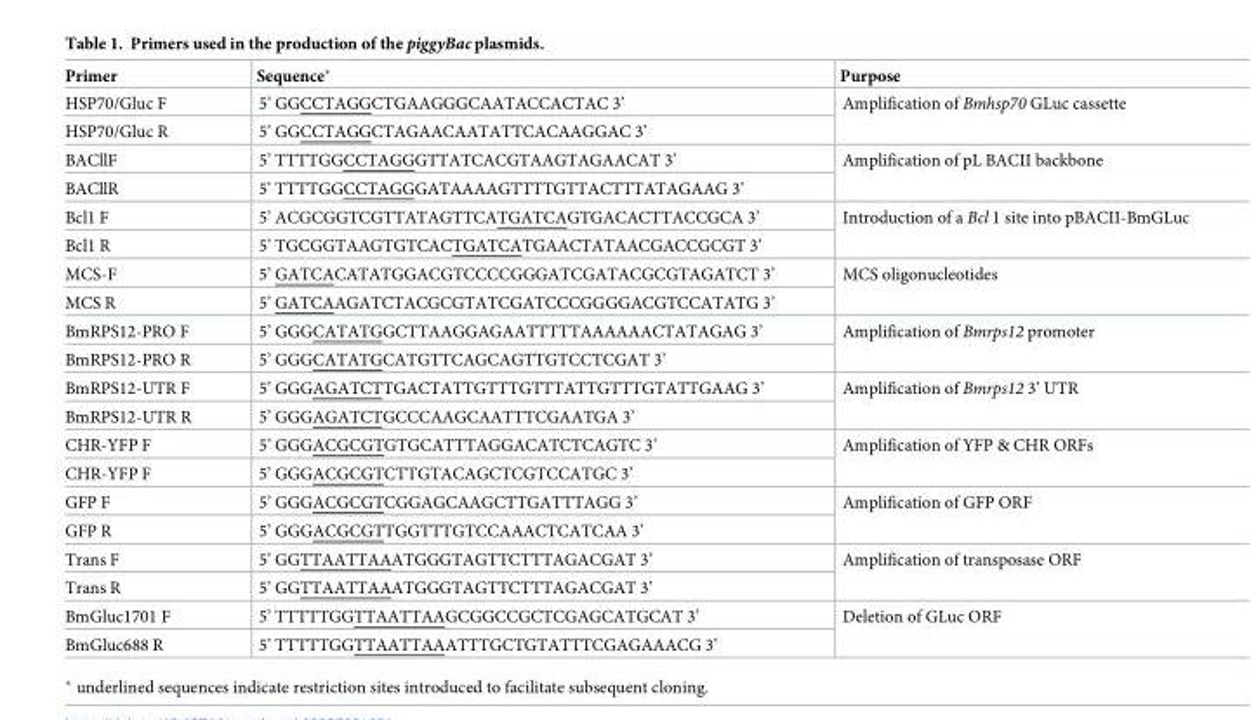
<table><thead><tr><td>Primer</td><td>Sequence*</td><td>Purpose</td></tr></thead><tbody><tr><td>HSP70/Gluc F</td><td>5’ GGCCTAGGCTGAAGGGCAATACCACTAC 3’</td><td rowspan="2">Amplification of Bmhsp70 GLuc cassette</td></tr><tr><td>HSP70/Gluc R</td><td>5’ GGCCTAGGCTAGAACAATATTCACAAGGAC 3’</td></tr><tr><td>BACllF</td><td>5’ TTTTGGCCTAGGGTTATCACGTAAGTAGAACAT 3’</td><td rowspan="2">Amplification of pL BACII backbone</td></tr><tr><td>BACllR</td><td>5’ TTTTGGCCTAGGGATAAAAGTTTTGTTACTTTATAGAAG 3’</td></tr><tr><td>Bcl1 F</td><td>5’ ACGCGGTCGTTATAGTTCATGATCAGTGACACTTACCGCA 3’</td><td rowspan="2">Introduction of a Bcl 1 site into pBACII-BmGLuc</td></tr><tr><td>Bcl1 R</td><td>5’ TGCGGTAAGTGTCACTGATCATGAACTATAACGACCGCGT 3’</td></tr><tr><td>MCS-F</td><td>5’ GATCACATATGGACGTCCCCGGGATCGATACGCGTAGATCT 3’</td><td rowspan="2">MCS oligonucleotides</td></tr><tr><td>MCS R</td><td>5’ GATCAAGATCTACGCGTATCGATCCCGGGGACGTCCATATG 3’</td></tr><tr><td>BmRPS12-PRO F</td><td>5’ GGGCATATGGCTTAAGGAGAATTTTTAAAAAACTATAGAG 3’</td><td rowspan="2">Amplification of Bmrps12 promoter</td></tr><tr><td>BmRPS12-PRO R</td><td>5’ GGGCATATGCATGTTCAGCAGTTGTCCTCGAT 3’</td></tr><tr><td>BmRPS12-UTR F</td><td>5’ GGGAGATCTTGACTATTGTTTGTTTATTGTTTGTATTGAAG 3’</td><td rowspan="2">Amplification of Bmrps12 3’ UTR</td></tr><tr><td>BmRPS12-UTR R</td><td>5’ GGGAGATCTGCCCAAGCAATTTCGAATGA 3’</td></tr><tr><td>CHR-YFP F</td><td>5’ GGGACGCGTGTGCATTTAGGACATCTCAGTC 3’</td><td rowspan="2">Amplification of YFP &amp; CHR ORFs</td></tr><tr><td>CHR-YFP F</td><td>5’ GGGACGCGTCTTGTACAGCTCGTCCATGC 3’</td></tr><tr><td>GFP F</td><td>5’ GGGACGCGTCGGAGCAAGCTTGATTTAGG 3’</td><td rowspan="2">Amplification of GFP ORF</td></tr><tr><td>GFP R</td><td>5’ GGGACGCGTTGGTTTGTCCAAACTCATCAA 3’</td></tr><tr><td>Trans F</td><td>5’ GGTTAATTAAATGGGTAGTTCTTTAGACGAT 3’</td><td rowspan="2">Amplification of transposase ORF</td></tr><tr><td>Trans R</td><td>5’ GGTTAATTAAATGGGTAGTTCTTTAGACGAT 3’</td></tr><tr><td>BmGluc1701 F</td><td>5’ TTTTTGGTTAATTAAGCGGCCGCTCGAGCATGCAT 3’</td><td rowspan="2">Deletion of GLuc ORF</td></tr><tr><td>BmGluc688 R</td><td>5’ TTTTTGGTTAATTAAATTTGCTGTATTTCGAGAAACG 3’</td></tr></tbody></table>